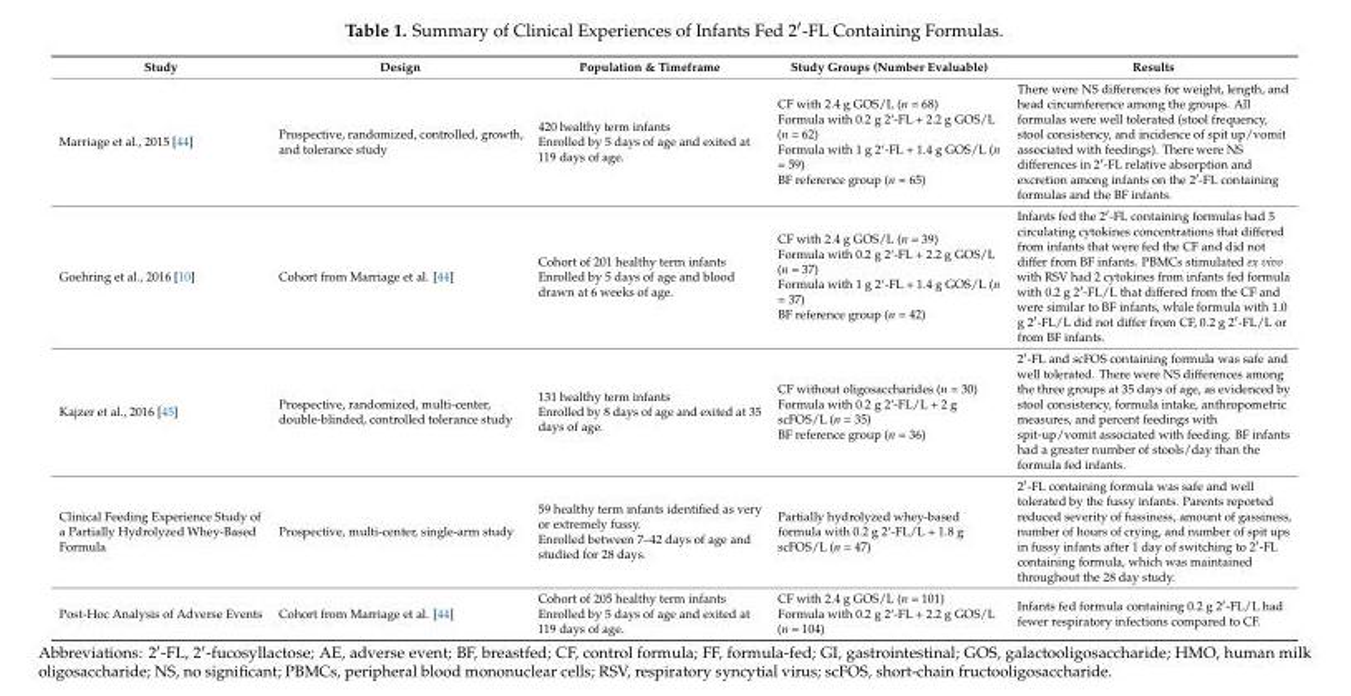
<table><thead><tr><td>Study</td><td>Design</td><td>Population &amp; Timeframe</td><td>Study Groups (Number Evaluable)</td><td>Results</td></tr></thead><tbody><tr><td>Marriage et al., 2015 [44]</td><td>Prospective, randomized, controlled, growth, and tolerance study</td><td>420 healthy term infants Enrolled by 5 days of age and exited at 119 days of age.</td><td>CF with 2.4 g GOS/L (n = 68) Formula with 0.2 g 2‘-FL + 2.2 g GOS/L (n = 62) Formula with 1 g 2‘-FL + 1.4 g GOS/L (n = 59) BF reference group (n = 65)</td><td>There were NS differences for weight, length, and head circumference among the groups. All formulas were well tolerated (stool frequency, stool consistency, and incidence of spit up/vomit associated with feedings). There were NS differences in 2′-FL relative absorption and excretion among infants on the 2′-FL containing formulas and the BF infants.</td></tr><tr><td>Goehring et al., 2016 [10]</td><td>Cohort from Marriage et al. [44]</td><td>Cohort of 201 healthy term infants Enrolled by 5 days of age and blood drawn at 6 weeks of age.</td><td>CF with 2.4 g GOS/L (n = 39) Formula with 0.2 g 2‘-FL + 2.2 g GOS/L (n = 37) Formula with 1 g 2‘-FL + 1.4 g GOS/L (n = 37) BF reference group (n = 42)</td><td>Infants fed the 2′-FL containing formulas had 5 circulating cytokines concentrations that differed from infants that were fed the CF and did not differ from BF infants. PBMCs stimulated ex vivo with RSV had 2 cytokines from infants fed formula with 0.2 g 2′-FL/L that differed from the CF and were similar to BF infants, while formula with 1.0 g 2′-FL/L did not differ from CF, 0.2 g 2′-FL/L or from BF infants.</td></tr><tr><td>Kajzer et al., 2016 [45]</td><td>Prospective, randomized, multi-center, double-blinded, controlled tolerance study</td><td>131 healthy term infants Enrolled by 8 days of age and exited at 35 days of age.</td><td>CF without oligosaccharides (n = 30) Formula with 0.2 g 2‘-FL/L + 2 g scFOS/L (n = 35) BF reference group (n = 36)</td><td>2′-FL and scFOS containing formula was safe and well tolerated. There were NS differences among the three groups at 35 days of age, as evidenced by stool consistency, formula intake, anthropometric measures, and percent feedings with spit-up/vomit associated with feeding. BF infants had a greater number of stools/day than the formula fed infants.</td></tr><tr><td>Clinical Feeding Experience Study of a Partially Hydrolyzed Whey-Based Formula</td><td>Prospective, multi-center, single-arm study</td><td>59 healthy term infants identified as very or extremely fussy. Enrolled between 7–42 days of age and studied for 28 days.</td><td>Partially hydrolyzed whey-based formula with 0.2 g 2‘-FL/L + 1.8 g scFOS/L (n = 47)</td><td>2′-FL containing formula was safe and well tolerated by the fussy infants. Parents reported reduced severity of fussiness, amount of gassiness, number of hours of crying, and number of spit ups in fussy infants after 1 day of switching to 2′-FL containing formula, which was maintained throughout the 28 day study.</td></tr><tr><td>Post-Hoc Analysis of Adverse Events</td><td>Cohort from Marriage et al. [44]</td><td>Cohort of 205 healthy term infants Enrolled by 5 days of age and exited at 119 days of age.</td><td>CF with 2.4 g GOS/L (n = 101) Formula with 0.2 g 2‘-FL + 2.2 g GOS/L (n = 104)</td><td>Infants fed formula containing 0.2 g 2′-FL/L had fewer respiratory infections compared to CF.</td></tr></tbody></table>